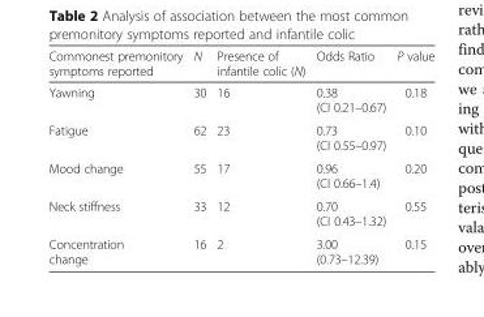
<table><thead><tr><td>Commonest premonitory symptoms reported</td><td>N</td><td>Presence of infantile colic (N)</td><td>Odds Ratio</td><td>P value</td></tr></thead><tbody><tr><td>Yawning</td><td>30</td><td>16</td><td>0.38 (CI 0.21–0.67)</td><td>0.18</td></tr><tr><td>Fatigue</td><td>62</td><td>23</td><td>0.73 (CI 0.55–0.97)</td><td>0.10</td></tr><tr><td>Mood change</td><td>55</td><td>17</td><td>0.96 (CI 0.66–1.4)</td><td>0.20</td></tr><tr><td>Neck stiffness</td><td>33</td><td>12</td><td>0.70 (CI 0.43–1.32)</td><td>0.55</td></tr><tr><td>Concentration change</td><td>16</td><td>2</td><td>3.00 (0.73–12.39)</td><td>0.15</td></tr></tbody></table>